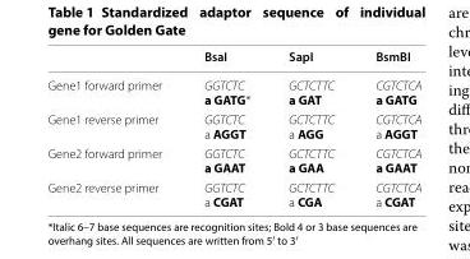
<table><thead><tr><td></td><td>BsaI</td><td>SapI</td><td>BsmBI</td></tr></thead><tbody><tr><td>Gene1 forward primer</td><td>GGTCTC a GATG*</td><td>GCTCTTC a GAT</td><td>CGTCTCA a GATG</td></tr><tr><td>Gene1 reverse primer</td><td>GGTCTC a AGGT</td><td>GCTCTTC a AGG</td><td>CGTCTCA a AGGT</td></tr><tr><td>Gene2 forward primer</td><td>GGTCTC a GAAT</td><td>GCTCTTC a GAA</td><td>CGTCTCA a GAAT</td></tr><tr><td>Gene2 reverse primer</td><td>GGTCTC a CGAT</td><td>GCTCTTC a CGA</td><td>CGTCTCA a CGAT</td></tr></tbody></table>